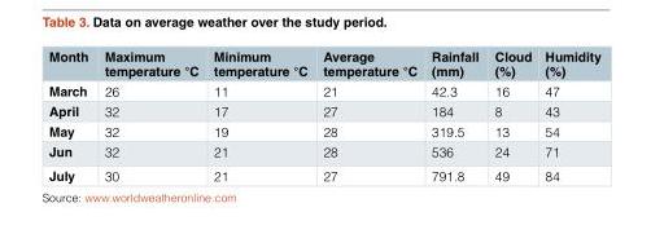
<table><thead><tr><td>Month</td><td>Maximum temperature °C</td><td>Minimum temperature °C</td><td>Average temperature °C</td><td>Rainfall (mm)</td><td>Cloud (%)</td><td>Humidity (%)</td></tr></thead><tbody><tr><td>March</td><td>26</td><td>11</td><td>21</td><td>42.3</td><td>16</td><td>47</td></tr><tr><td>April</td><td>32</td><td>17</td><td>27</td><td>184</td><td>8</td><td>43</td></tr><tr><td>May</td><td>32</td><td>19</td><td>28</td><td>319.5</td><td>13</td><td>54</td></tr><tr><td>Jun</td><td>32</td><td>21</td><td>28</td><td>536</td><td>24</td><td>71</td></tr><tr><td>July</td><td>30</td><td>21</td><td>27</td><td>791.8</td><td>49</td><td>84</td></tr></tbody></table>